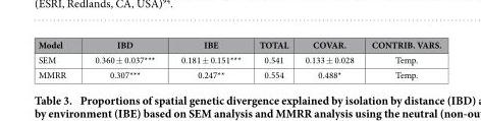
<table><thead><tr><td>Model</td><td>IBD</td><td>IBE</td><td>TOTAL</td><td>COVAR.</td><td>CONTRIB. VARS.</td></tr></thead><tbody><tr><td>SEM</td><td>0.360 ± 0.037***</td><td>0.181 ± 0.151***</td><td>0.541</td><td>0.133 ± 0.028</td><td>Temp.</td></tr><tr><td>MMRR</td><td>0.307***</td><td>0.247**</td><td>0.554</td><td>0.488*</td><td>Temp.</td></tr></tbody></table>